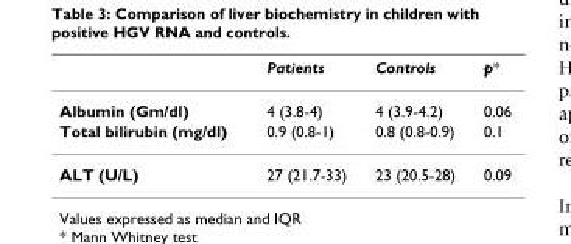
<table><thead><tr><td></td><td>Patients</td><td>Controls</td><td>p*</td></tr></thead><tbody><tr><td>Albumin (Gm/dl)</td><td>4 (3.8-4)</td><td>4 (3.9-4.2)</td><td>0.06</td></tr><tr><td>Total bilirubin (mg/dl)</td><td>0.9 (0.8-1)</td><td>0.8 (0.8-0.9)</td><td>0.1</td></tr><tr><td>ALT (U/L)</td><td>27 (21.7-33)</td><td>23 (20.5-28)</td><td>0.09</td></tr></tbody></table>